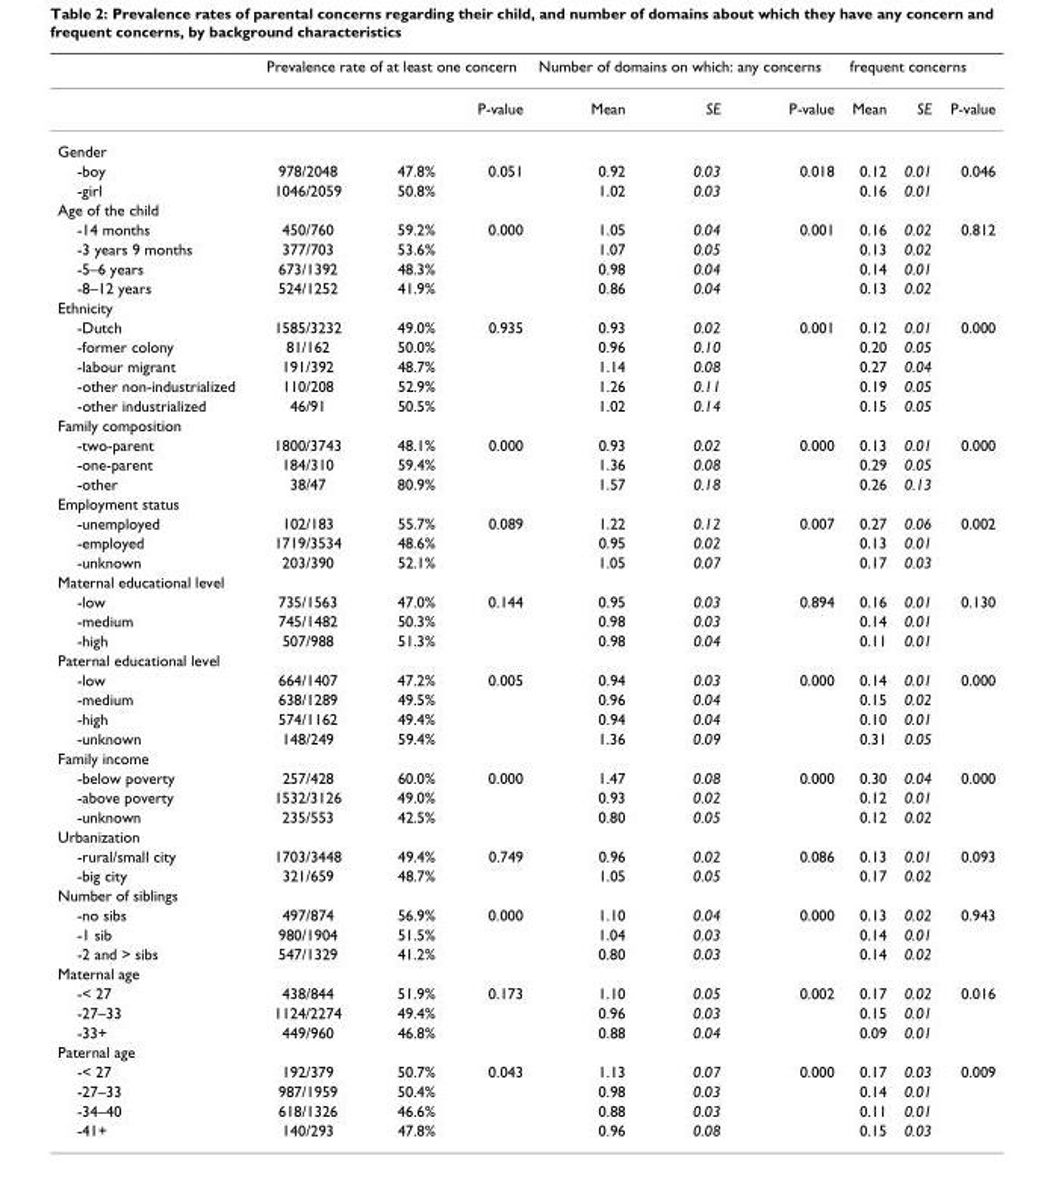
<table><thead><tr><td rowspan="2"></td><td colspan="3">Prevalence rate of at least one concern</td><td colspan="3">Number of domains on which: any concerns</td><td colspan="3">frequent concerns</td></tr><tr><td></td><td></td><td>P-value</td><td>Mean</td><td>SE</td><td>P-value</td><td>Mean</td><td>SE</td><td>P-value</td></tr></thead><tbody><tr><td colspan="10">Gender</td></tr><tr><td>-boy</td><td>978/2048</td><td>47.8%</td><td>0.051</td><td>0.92</td><td>0.03</td><td>0.018</td><td>0.12</td><td>0.01</td><td>0.046</td></tr><tr><td>-girl</td><td>1046/2059</td><td>50.8%</td><td></td><td>1.02</td><td>0.03</td><td></td><td>0.16</td><td>0.01</td><td></td></tr><tr><td colspan="10">Age of the child</td></tr><tr><td>-14 months</td><td>450/760</td><td>59.2%</td><td>0.000</td><td>1.05</td><td>0.04</td><td>0.001</td><td>0.16</td><td>0.02</td><td>0.812</td></tr><tr><td>-3 years 9 months</td><td>377/703</td><td>53.6%</td><td></td><td>1.07</td><td>0.05</td><td></td><td>0.13</td><td>0.02</td><td></td></tr><tr><td>-5–6 years</td><td>673/1392</td><td>48.3%</td><td></td><td>0.98</td><td>0.04</td><td></td><td>0.14</td><td>0.01</td><td></td></tr><tr><td>-8–12 years</td><td>524/1252</td><td>41.9%</td><td></td><td>0.86</td><td>0.04</td><td></td><td>0.13</td><td>0.02</td><td></td></tr><tr><td colspan="10">Ethnicity</td></tr><tr><td>-Dutch</td><td>1585/3232</td><td>49.0%</td><td>0.935</td><td>0.93</td><td>0.02</td><td>0.001</td><td>0.12</td><td>0.01</td><td>0.000</td></tr><tr><td>-former colony</td><td>81/162</td><td>50.0%</td><td></td><td>0.96</td><td>0.10</td><td></td><td>0.20</td><td>0.05</td><td></td></tr><tr><td>-labour migrant</td><td>191/392</td><td>48.7%</td><td></td><td>1.14</td><td>0.08</td><td></td><td>0.27</td><td>0.04</td><td></td></tr><tr><td>-other non-industrialized</td><td>110/208</td><td>52.9%</td><td></td><td>1.26</td><td>0.11</td><td></td><td>0.19</td><td>0.05</td><td></td></tr><tr><td>-other industrialized</td><td>46/91</td><td>50.5%</td><td></td><td>1.02</td><td>0.14</td><td></td><td>0.15</td><td>0.05</td><td></td></tr><tr><td colspan="10">Family composition</td></tr><tr><td>-two-parent</td><td>1800/3743</td><td>48.1%</td><td>0.000</td><td>0.93</td><td>0.02</td><td>0.000</td><td>0.13</td><td>0.01</td><td>0.000</td></tr><tr><td>-one-parent</td><td>184/310</td><td>59.4%</td><td></td><td>1.36</td><td>0.08</td><td></td><td>0.29</td><td>0.05</td><td></td></tr><tr><td>-other</td><td>38/47</td><td>80.9%</td><td></td><td>1.57</td><td>0.18</td><td></td><td>0.26</td><td>0.13</td><td></td></tr><tr><td colspan="10">Employment status</td></tr><tr><td>-unemployed</td><td>102/183</td><td>55.7%</td><td>0.089</td><td>1.22</td><td>0.12</td><td>0.007</td><td>0.27</td><td>0.06</td><td>0.002</td></tr><tr><td>-employed</td><td>1719/3534</td><td>48.6%</td><td></td><td>0.95</td><td>0.02</td><td></td><td>0.13</td><td>0.01</td><td></td></tr><tr><td>-unknown</td><td>203/390</td><td>52.1%</td><td></td><td>1.05</td><td>0.07</td><td></td><td>0.17</td><td>0.03</td><td></td></tr><tr><td colspan="10">Maternal educational level</td></tr><tr><td>-low</td><td>735/1563</td><td>47.0%</td><td>0.144</td><td>0.95</td><td>0.03</td><td>0.894</td><td>0.16</td><td>0.01</td><td>0.130</td></tr><tr><td>-medium</td><td>745/1482</td><td>50.3%</td><td></td><td>0.98</td><td>0.03</td><td></td><td>0.14</td><td>0.01</td><td></td></tr><tr><td>-high</td><td>507/988</td><td>51.3%</td><td></td><td>0.98</td><td>0.04</td><td></td><td>0.11</td><td>0.01</td><td></td></tr><tr><td colspan="10">Paternal educational level</td></tr><tr><td>-low</td><td>664/1407</td><td>47.2%</td><td>0.005</td><td>0.94</td><td>0.03</td><td>0.000</td><td>0.14</td><td>0.01</td><td>0.000</td></tr><tr><td>-medium</td><td>638/1289</td><td>49.5%</td><td></td><td>0.96</td><td>0.04</td><td></td><td>0.15</td><td>0.02</td><td></td></tr><tr><td>-high</td><td>574/1162</td><td>49.4%</td><td></td><td>0.94</td><td>0.04</td><td></td><td>0.10</td><td>0.01</td><td></td></tr><tr><td>-unknown</td><td>148/249</td><td>59.4%</td><td></td><td>1.36</td><td>0.09</td><td></td><td>0.31</td><td>0.05</td><td></td></tr><tr><td colspan="10">Family income</td></tr><tr><td>-below poverty</td><td>257/428</td><td>60.0%</td><td>0.000</td><td>1.47</td><td>0.08</td><td>0.000</td><td>0.30</td><td>0.04</td><td>0.000</td></tr><tr><td>-above poverty</td><td>1532/3126</td><td>49.0%</td><td></td><td>0.93</td><td>0.02</td><td></td><td>0.12</td><td>0.01</td><td></td></tr><tr><td>-unknown</td><td>235/553</td><td>42.5%</td><td></td><td>0.80</td><td>0.05</td><td></td><td>0.12</td><td>0.02</td><td></td></tr><tr><td colspan="10">Urbanization</td></tr><tr><td>-rural/small city</td><td>1703/3448</td><td>49.4%</td><td>0.749</td><td>0.96</td><td>0.02</td><td>0.086</td><td>0.13</td><td>0.01</td><td>0.093</td></tr><tr><td>-big city</td><td>321/659</td><td>48.7%</td><td></td><td>1.05</td><td>0.05</td><td></td><td>0.17</td><td>0.02</td><td></td></tr><tr><td colspan="10">Number of siblings</td></tr><tr><td>-no sibs</td><td>497/874</td><td>56.9%</td><td>0.000</td><td>1.10</td><td>0.04</td><td>0.000</td><td>0.13</td><td>0.02</td><td>0.943</td></tr><tr><td>-1 sib</td><td>980/1904</td><td>51.5%</td><td></td><td>1.04</td><td>0.03</td><td></td><td>0.14</td><td>0.01</td><td></td></tr><tr><td>-2 and &gt; sibs</td><td>547/1329</td><td>41.2%</td><td></td><td>0.80</td><td>0.03</td><td></td><td>0.14</td><td>0.02</td><td></td></tr><tr><td colspan="10">Maternal age</td></tr><tr><td>-&lt; 27</td><td>438/844</td><td>51.9%</td><td>0.173</td><td>1.10</td><td>0.05</td><td>0.002</td><td>0.17</td><td>0.02</td><td>0.016</td></tr><tr><td>-27–33</td><td>1124/2274</td><td>49.4%</td><td></td><td>0.96</td><td>0.03</td><td></td><td>0.15</td><td>0.01</td><td></td></tr><tr><td>-33+</td><td>449/960</td><td>46.8%</td><td></td><td>0.88</td><td>0.04</td><td></td><td>0.09</td><td>0.01</td><td></td></tr><tr><td colspan="10">Paternal age</td></tr><tr><td>-&lt; 27</td><td>192/379</td><td>50.7%</td><td>0.043</td><td>1.13</td><td>0.07</td><td>0.000</td><td>0.17</td><td>0.03</td><td>0.009</td></tr><tr><td>-27–33</td><td>987/1959</td><td>50.4%</td><td></td><td>0.98</td><td>0.03</td><td></td><td>0.14</td><td>0.01</td><td></td></tr><tr><td>-34–40</td><td>618/1326</td><td>46.6%</td><td></td><td>0.88</td><td>0.03</td><td></td><td>0.11</td><td>0.01</td><td></td></tr><tr><td>-41+</td><td>140/293</td><td>47.8%</td><td></td><td>0.96</td><td>0.08</td><td></td><td>0.15</td><td>0.03</td><td></td></tr></tbody></table>